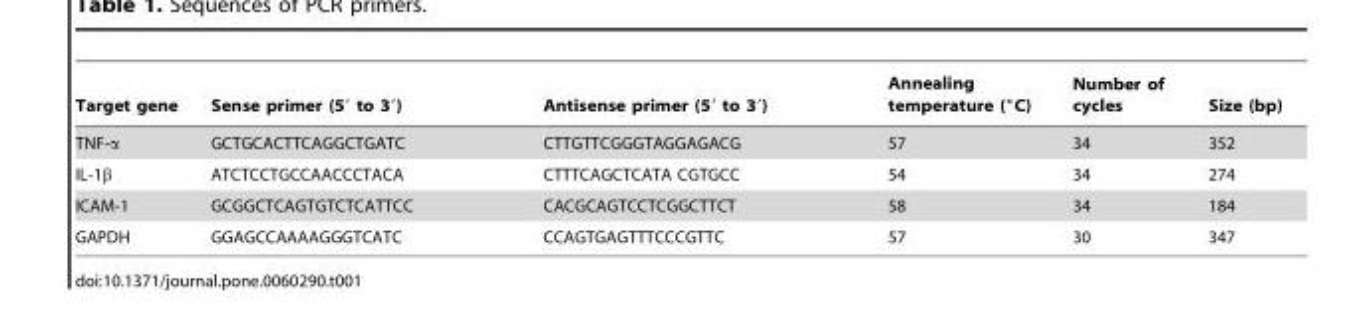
<table><thead><tr><td>Target gene</td><td>Sense primer (5′ to 3′)</td><td>Antisense primer (5′ to 3′)</td><td>Annealing temperature (°C)</td><td>Number of cycles</td><td>Size (bp)</td></tr></thead><tbody><tr><td>TNF-α</td><td>GCTGCACTTCAGGCTGATC</td><td>CTTGTTCGGGTAGGAGACG</td><td>57</td><td>34</td><td>352</td></tr><tr><td>IL-1β</td><td>ATCTCCTGCCAACCCTACA</td><td>CTTTCAGCTCATA CGTGCC</td><td>54</td><td>34</td><td>274</td></tr><tr><td>ICAM-1</td><td>GCGGCTCAGTGTCTCATTCC</td><td>CACGCAGTCCTCGGCTTCT</td><td>58</td><td>34</td><td>184</td></tr><tr><td>GAPDH</td><td>GGAGCCAAAAGGGTCATC</td><td>CCAGTGAGTTTCCCGTTC</td><td>57</td><td>30</td><td>347</td></tr></tbody></table>